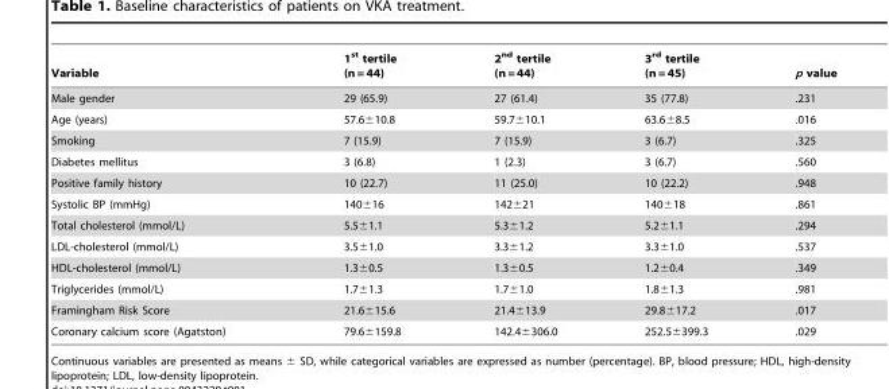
<table><thead><tr><td>Variable</td><td>1<sup>st</sup> tertile (n = 44)</td><td>2<sup>nd</sup> tertile (n = 44)</td><td>3<sup>rd</sup> tertile (n = 45)</td><td>p value</td></tr></thead><tbody><tr><td>Male gender</td><td>29 (65.9)</td><td>27 (61.4)</td><td>35 (77.8)</td><td>.231</td></tr><tr><td>Age (years)</td><td>57.6±10.8</td><td>59.7±10.1</td><td>63.6±8.5</td><td>.016</td></tr><tr><td>Smoking</td><td>7 (15.9)</td><td>7 (15.9)</td><td>3 (6.7)</td><td>.325</td></tr><tr><td>Diabetes mellitus</td><td>3 (6.8)</td><td>1 (2.3)</td><td>3 (6.7)</td><td>.560</td></tr><tr><td>Positive family history</td><td>10 (22.7)</td><td>11 (25.0)</td><td>10 (22.2)</td><td>.948</td></tr><tr><td>Systolic BP (mmHg)</td><td>140±16</td><td>142±21</td><td>140±18</td><td>.861</td></tr><tr><td>Total cholesterol (mmol/L)</td><td>5.5±1.1</td><td>5.3±1.2</td><td>5.2±1.1</td><td>.294</td></tr><tr><td>LDL-cholesterol (mmol/L)</td><td>3.5±1.0</td><td>3.3±1.2</td><td>3.3±1.0</td><td>.537</td></tr><tr><td>HDL-cholesterol (mmol/L)</td><td>1.3±0.5</td><td>1.3±0.5</td><td>1.2±0.4</td><td>.349</td></tr><tr><td>Triglycerides (mmol/L)</td><td>1.7±1.3</td><td>1.7±1.0</td><td>1.8±1.3</td><td>.981</td></tr><tr><td>Framingham Risk Score</td><td>21.6±15.6</td><td>21.4±13.9</td><td>29.8±17.2</td><td>.017</td></tr><tr><td>Coronary calcium score (Agatston)</td><td>79.6±159.8</td><td>142.4±306.0</td><td>252.5±399.3</td><td>.029</td></tr></tbody></table>